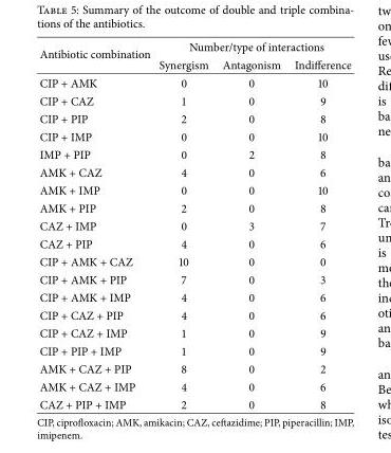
<table><thead><tr><td rowspan="2">Antibiotic combination</td><td colspan="3">Number/type of interactions</td></tr><tr><td>Synergism</td><td>Antagonism</td><td>Indifference</td></tr></thead><tbody><tr><td>CIP + AMK</td><td>0</td><td>0</td><td>10</td></tr><tr><td>CIP + CAZ</td><td>1</td><td>0</td><td>9</td></tr><tr><td>CIP + PIP</td><td>2</td><td>0</td><td>8</td></tr><tr><td>CIP + IMP</td><td>0</td><td>0</td><td>10</td></tr><tr><td>IMP + PIP</td><td>0</td><td>2</td><td>8</td></tr><tr><td>AMK + CAZ</td><td>4</td><td>0</td><td>6</td></tr><tr><td>AMK + IMP</td><td>0</td><td>0</td><td>10</td></tr><tr><td>AMK + PIP</td><td>2</td><td>0</td><td>8</td></tr><tr><td>CAZ + IMP</td><td>0</td><td>3</td><td>7</td></tr><tr><td>CAZ + PIP</td><td>4</td><td>0</td><td>6</td></tr><tr><td>CIP + AMK + CAZ</td><td>10</td><td>0</td><td>0</td></tr><tr><td>CIP + AMK + PIP</td><td>7</td><td>0</td><td>3</td></tr><tr><td>CIP + AMK + IMP</td><td>4</td><td>0</td><td>6</td></tr><tr><td>CIP + CAZ + PIP</td><td>4</td><td>0</td><td>6</td></tr><tr><td>CIP + CAZ + IMP</td><td>1</td><td>0</td><td>9</td></tr><tr><td>CIP + PIP + IMP</td><td>1</td><td>0</td><td>9</td></tr><tr><td>AMK + CAZ + PIP</td><td>8</td><td>0</td><td>2</td></tr><tr><td>AMK + CAZ + IMP</td><td>4</td><td>0</td><td>6</td></tr><tr><td>CAZ + PIP + IMP</td><td>2</td><td>0</td><td>8</td></tr></tbody></table>